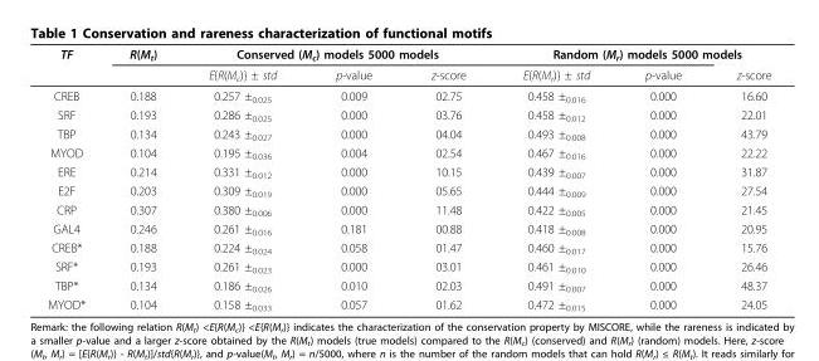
<table><thead><tr><td rowspan="2">TF</td><td rowspan="2">R(M<sub>t</sub>)</td><td colspan="3">Conserved (M<sub>c</sub>) models 5000 models</td><td colspan="3">Random (M<sub>r</sub>) models 5000 models</td></tr><tr><td>E{R(M<sub>c</sub>)} ± std</td><td>p-value</td><td>z-score</td><td>E{R(M<sub>r</sub>)} ± std</td><td>p-value</td><td>z-score</td></tr></thead><tbody><tr><td>CREB</td><td>0.188</td><td>0.257 ±<sub>0.025</sub></td><td>0.009</td><td>02.75</td><td>0.458 ±<sub>0.016</sub></td><td>0.000</td><td>16.60</td></tr><tr><td>SRF</td><td>0.193</td><td>0.286 ±<sub>0.025</sub></td><td>0.000</td><td>03.76</td><td>0.458 ±<sub>0.012</sub></td><td>0.000</td><td>22.01</td></tr><tr><td>TBP</td><td>0.134</td><td>0.243 ±<sub>0.027</sub></td><td>0.000</td><td>04.04</td><td>0.493 ±<sub>0.008</sub></td><td>0.000</td><td>43.79</td></tr><tr><td>MYOD</td><td>0.104</td><td>0.195 ±<sub>0.036</sub></td><td>0.004</td><td>02.54</td><td>0.467 ±<sub>0.016</sub></td><td>0.000</td><td>22.22</td></tr><tr><td>ERE</td><td>0.214</td><td>0.331 ±<sub>0.012</sub></td><td>0.000</td><td>10.15</td><td>0.439 ±<sub>0.007</sub></td><td>0.000</td><td>31.87</td></tr><tr><td>E2F</td><td>0.203</td><td>0.309 ±<sub>0.019</sub></td><td>0.000</td><td>05.65</td><td>0.444 ±<sub>0.009</sub></td><td>0.000</td><td>27.54</td></tr><tr><td>CRP</td><td>0.307</td><td>0.380 ±<sub>0.006</sub></td><td>0.000</td><td>11.48</td><td>0.422 ±<sub>0.005</sub></td><td>0.000</td><td>21.45</td></tr><tr><td>GAL4</td><td>0.246</td><td>0.261 ±<sub>0.016</sub></td><td>0.181</td><td>00.88</td><td>0.418 ±<sub>0.008</sub></td><td>0.000</td><td>20.95</td></tr><tr><td>CREB*</td><td>0.188</td><td>0.224 ±<sub>0.024</sub></td><td>0.058</td><td>01.47</td><td>0.460 ±<sub>0.017</sub></td><td>0.000</td><td>15.76</td></tr><tr><td>SRF*</td><td>0.193</td><td>0.261 ±<sub>0.023</sub></td><td>0.000</td><td>03.01</td><td>0.461 ±<sub>0.010</sub></td><td>0.000</td><td>26.46</td></tr><tr><td>TBP*</td><td>0.134</td><td>0.186 ±<sub>0.026</sub></td><td>0.010</td><td>02.03</td><td>0.491 ±<sub>0.007</sub></td><td>0.000</td><td>48.37</td></tr><tr><td>MYOD*</td><td>0.104</td><td>0.158 ±<sub>0.033</sub></td><td>0.057</td><td>01.62</td><td>0.472 ±<sub>0.015</sub></td><td>0.000</td><td>24.05</td></tr></tbody></table>